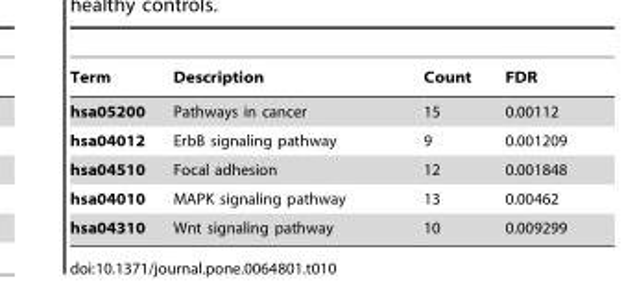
<table><thead><tr><td>Term</td><td>Description</td><td>Count</td><td>FDR</td></tr></thead><tbody><tr><td>hsa05200</td><td>Pathways in cancer</td><td>15</td><td>0.00112</td></tr><tr><td>hsa04012</td><td>ErbB signaling pathway</td><td>9</td><td>0.001209</td></tr><tr><td>hsa04510</td><td>Focal adhesion</td><td>12</td><td>0.001848</td></tr><tr><td>hsa04010</td><td>MAPK signaling pathway</td><td>13</td><td>0.00462</td></tr><tr><td>hsa04310</td><td>Wnt signaling pathway</td><td>10</td><td>0.009299</td></tr></tbody></table>